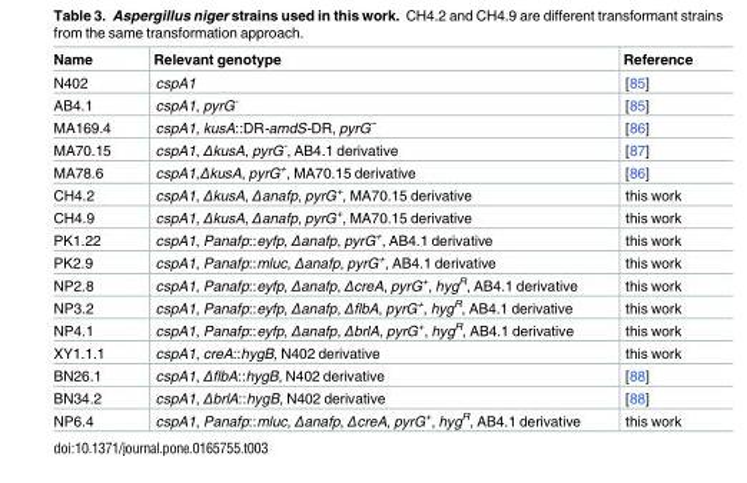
<table><thead><tr><td>Name</td><td>Relevant genotype</td><td>Reference</td></tr></thead><tbody><tr><td>N402</td><td>cspA1</td><td>[85]</td></tr><tr><td>AB4.1</td><td>cspA1, pyrG<sup>-</sup></td><td>[85]</td></tr><tr><td>MA169.4</td><td>cspA1, kusA::DR-amdS-DR, pyrG<sup>−</sup></td><td>[86]</td></tr><tr><td>MA70.15</td><td>cspA1, ΔkusA, pyrG<sup>-</sup>, AB4.1 derivative</td><td>[87]</td></tr><tr><td>MA78.6</td><td>cspA1,ΔkusA, pyrG<sup>+</sup>, MA70.15 derivative</td><td>[86]</td></tr><tr><td>CH4.2</td><td>cspA1, ΔkusA, Δanafp, pyrG<sup>+</sup>, MA70.15 derivative</td><td>this work</td></tr><tr><td>CH4.9</td><td>cspA1, ΔkusA, Δanafp, pyrG<sup>+</sup>, MA70.15 derivative</td><td>this work</td></tr><tr><td>PK1.22</td><td>cspA1, Panafp::eyfp, Δanafp, pyrG<sup>+</sup>, AB4.1 derivative</td><td>this work</td></tr><tr><td>PK2.9</td><td>cspA1, Panafp::mluc, Δanafp, pyrG<sup>+</sup>, AB4.1 derivative</td><td>this work</td></tr><tr><td>NP2.8</td><td>cspA1, Panafp::eyfp, Δanafp, ΔcreA, pyrG<sup>+</sup>, hyg<sup>R</sup>, AB4.1 derivative</td><td>this work</td></tr><tr><td>NP3.2</td><td>cspA1, Panafp::eyfp, Δanafp, ΔflbA, pyrG<sup>+</sup>, hyg<sup>R</sup>, AB4.1 derivative</td><td>this work</td></tr><tr><td>NP4.1</td><td>cspA1, Panafp::eyfp, Δanafp, ΔbrlA, pyrG<sup>+</sup>, hyg<sup>R</sup>, AB4.1 derivative</td><td>this work</td></tr><tr><td>XY1.1.1</td><td>cspA1, creA::hygB, N402 derivative</td><td>this work</td></tr><tr><td>BN26.1</td><td>cspA1, ΔflbA::hygB, N402 derivative</td><td>[88]</td></tr><tr><td>BN34.2</td><td>cspA1, ΔbrlA::hygB, N402 derivative</td><td>[88]</td></tr><tr><td>NP6.4</td><td>cspA1, Panafp::mluc, Δanafp, ΔcreA, pyrG<sup>+</sup>, hyg<sup>R</sup>, AB4.1 derivative</td><td>this work</td></tr></tbody></table>